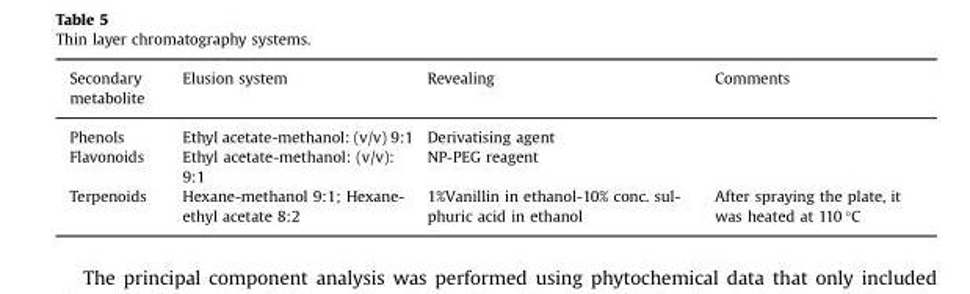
<table><thead><tr><td>Secondary metabolite</td><td>Elusion system</td><td>Revealing</td><td>Comments</td></tr></thead><tbody><tr><td>Phenols</td><td>Ethyl acetate-methanol: (v/v) 9:1</td><td>Derivatising agent</td><td></td></tr><tr><td>Flavonoids</td><td>Ethyl acetate-methanol: (v/v): 9:1</td><td>NP-PEG reagent</td><td></td></tr><tr><td>Terpenoids</td><td>Hexane-methanol 9:1; Hexane- ethyl acetate 8:2</td><td>1%Vanillin in ethanol-10% conc. sul- phuric acid in ethanol</td><td>After spraying the plate, it was heated at 110 °C</td></tr></tbody></table>